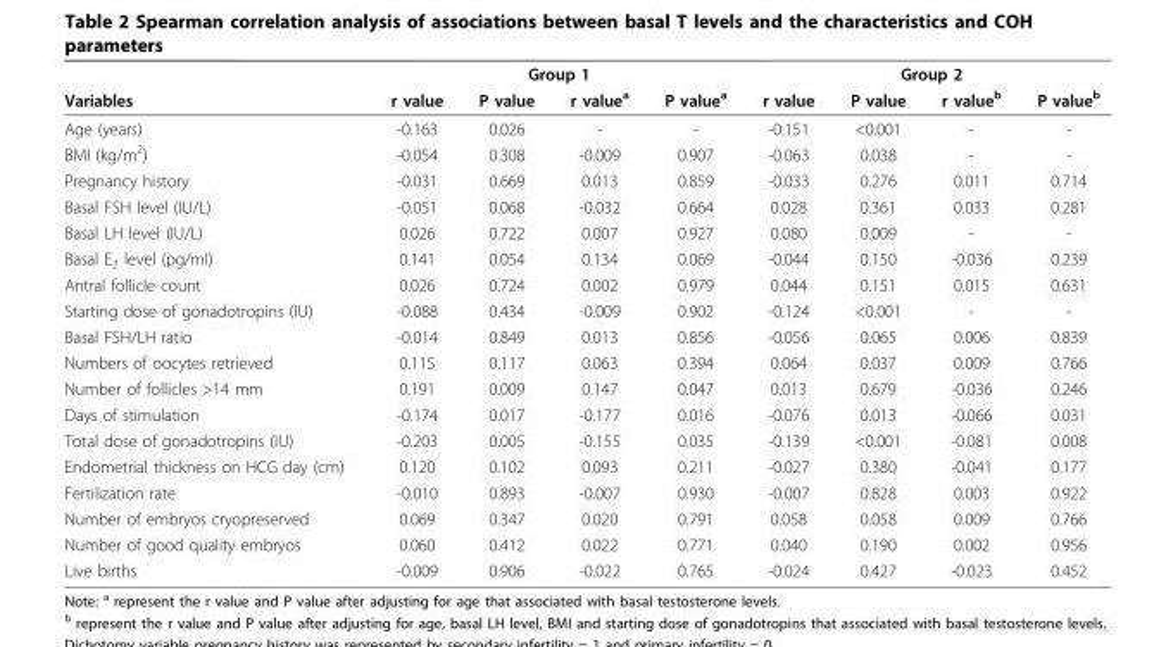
<table><thead><tr><td rowspan="2">Variables</td><td colspan="4">Group 1</td><td colspan="4">Group 2</td></tr><tr><td>r value</td><td>P value</td><td>r value<sup>a</sup></td><td>P value<sup>a</sup></td><td>r value</td><td>P value</td><td>r value<sup>b</sup></td><td>P value<sup>b</sup></td></tr></thead><tbody><tr><td>Age (years)</td><td>-0.163</td><td>0.026</td><td>-</td><td>-</td><td>-0.151</td><td>&lt;0.001</td><td>-</td><td>-</td></tr><tr><td>BMI (kg/m<sup>2</sup>)</td><td>-0.054</td><td>0.308</td><td>-0.009</td><td>0.907</td><td>-0.063</td><td>0.038</td><td>-</td><td>-</td></tr><tr><td>Pregnancy history</td><td>-0.031</td><td>0.669</td><td>0.013</td><td>0.859</td><td>-0.033</td><td>0.276</td><td>0.011</td><td>0.714</td></tr><tr><td>Basal FSH level (IU/L)</td><td>-0.051</td><td>0.068</td><td>-0.032</td><td>0.664</td><td>0.028</td><td>0.361</td><td>0.033</td><td>0.281</td></tr><tr><td>Basal LH level (IU/L)</td><td>0.026</td><td>0.722</td><td>0.007</td><td>0.927</td><td>0.080</td><td>0.009</td><td>-</td><td>-</td></tr><tr><td>Basal E<sub>2</sub> level (pg/ml)</td><td>0.141</td><td>0.054</td><td>0.134</td><td>0.069</td><td>-0.044</td><td>0.150</td><td>-0.036</td><td>0.239</td></tr><tr><td>Antral follicle count</td><td>0.026</td><td>0.724</td><td>0.002</td><td>0.979</td><td>0.044</td><td>0.151</td><td>0.015</td><td>0.631</td></tr><tr><td>Starting dose of gonadotropins (IU)</td><td>-0.088</td><td>0.434</td><td>-0.009</td><td>0.902</td><td>-0.124</td><td>&lt;0.001</td><td>-</td><td>-</td></tr><tr><td>Basal FSH/LH ratio</td><td>-0.014</td><td>0.849</td><td>0.013</td><td>0.856</td><td>-0.056</td><td>0.065</td><td>0.006</td><td>0.839</td></tr><tr><td>Numbers of oocytes retrieved</td><td>0.115</td><td>0.117</td><td>0.063</td><td>0.394</td><td>0.064</td><td>0.037</td><td>0.009</td><td>0.766</td></tr><tr><td>Number of follicles &gt;14 mm</td><td>0.191</td><td>0.009</td><td>0.147</td><td>0.047</td><td>0.013</td><td>0.679</td><td>-0.036</td><td>0.246</td></tr><tr><td>Days of stimulation</td><td>-0.174</td><td>0.017</td><td>-0.177</td><td>0.016</td><td>-0.076</td><td>0.013</td><td>-0.066</td><td>0.031</td></tr><tr><td>Total dose of gonadotropins (IU)</td><td>-0.203</td><td>0.005</td><td>-0.155</td><td>0.035</td><td>-0.139</td><td>&lt;0.001</td><td>-0.081</td><td>0.008</td></tr><tr><td>Endometrial thickness on HCG day (cm)</td><td>0.120</td><td>0.102</td><td>0.093</td><td>0.211</td><td>-0.027</td><td>0.380</td><td>-0.041</td><td>0.177</td></tr><tr><td>Fertilization rate</td><td>-0.010</td><td>0.893</td><td>-0.007</td><td>0.930</td><td>-0.007</td><td>0.828</td><td>0.003</td><td>0.922</td></tr><tr><td>Number of embryos cryopreserved</td><td>0.069</td><td>0.347</td><td>0.020</td><td>0.791</td><td>0.058</td><td>0.058</td><td>0.009</td><td>0.766</td></tr><tr><td>Number of good quality embryos</td><td>0.060</td><td>0.412</td><td>0.022</td><td>0.771</td><td>0.040</td><td>0.190</td><td>0.002</td><td>0.956</td></tr><tr><td>Live births</td><td>-0.009</td><td>0.906</td><td>-0.022</td><td>0.765</td><td>-0.024</td><td>0.427</td><td>-0.023</td><td>0.452</td></tr></tbody></table>